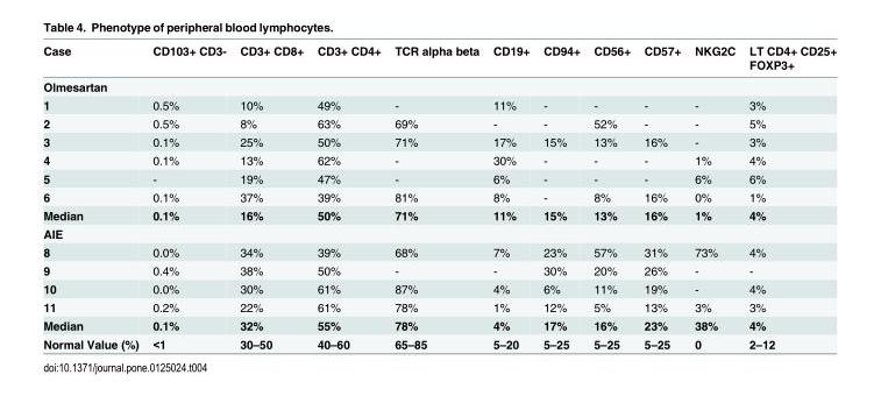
<table><thead><tr><td>Case</td><td>CD103+ CD3-</td><td>CD3+ CD8+</td><td>CD3+ CD4+</td><td>TCR alpha beta</td><td>CD19+</td><td>CD94+</td><td>CD56+</td><td>CD57+</td><td>NKG2C</td><td>LT CD4+ CD25+ FOXP3+</td></tr></thead><tbody><tr><td colspan="11">Olmesartan</td></tr><tr><td>1</td><td>0.5%</td><td>10%</td><td>49%</td><td>-</td><td>11%</td><td>-</td><td>-</td><td>-</td><td>-</td><td>3%</td></tr><tr><td>2</td><td>0.5%</td><td>8%</td><td>63%</td><td>69%</td><td>-</td><td>-</td><td>52%</td><td>-</td><td>-</td><td>5%</td></tr><tr><td>3</td><td>0.1%</td><td>25%</td><td>50%</td><td>71%</td><td>17%</td><td>15%</td><td>13%</td><td>16%</td><td>-</td><td>3%</td></tr><tr><td>4</td><td>0.1%</td><td>13%</td><td>62%</td><td>-</td><td>30%</td><td>-</td><td>-</td><td>-</td><td>1%</td><td>4%</td></tr><tr><td>5</td><td>-</td><td>19%</td><td>47%</td><td>-</td><td>6%</td><td>-</td><td>-</td><td>-</td><td>6%</td><td>6%</td></tr><tr><td>6</td><td>0.1%</td><td>37%</td><td>39%</td><td>81%</td><td>8%</td><td>-</td><td>8%</td><td>16%</td><td>0%</td><td>1%</td></tr><tr><td>Median</td><td>0.1%</td><td>16%</td><td>50%</td><td>71%</td><td>11%</td><td>15%</td><td>13%</td><td>16%</td><td>1%</td><td>4%</td></tr><tr><td colspan="11">AIE</td></tr><tr><td>8</td><td>0.0%</td><td>34%</td><td>39%</td><td>68%</td><td>7%</td><td>23%</td><td>57%</td><td>31%</td><td>73%</td><td>4%</td></tr><tr><td>9</td><td>0.4%</td><td>38%</td><td>50%</td><td>-</td><td>-</td><td>30%</td><td>20%</td><td>26%</td><td>-</td><td>-</td></tr><tr><td>10</td><td>0.0%</td><td>30%</td><td>61%</td><td>87%</td><td>4%</td><td>6%</td><td>11%</td><td>19%</td><td>-</td><td>4%</td></tr><tr><td>11</td><td>0.2%</td><td>22%</td><td>61%</td><td>78%</td><td>1%</td><td>12%</td><td>5%</td><td>13%</td><td>3%</td><td>3%</td></tr><tr><td>Median</td><td>0.1%</td><td>32%</td><td>55%</td><td>78%</td><td>4%</td><td>17%</td><td>16%</td><td>23%</td><td>38%</td><td>4%</td></tr><tr><td>Normal Value (%)</td><td>&lt;1</td><td>30–50</td><td>40–60</td><td>65–85</td><td>5–20</td><td>5–25</td><td>5–25</td><td>5–25</td><td>0</td><td>2–12</td></tr></tbody></table>